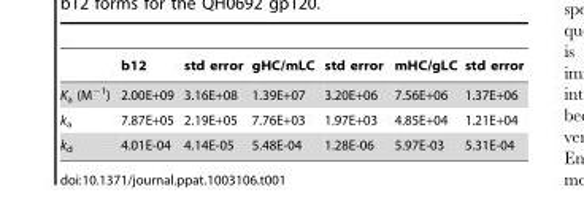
<table><thead><tr><td></td><td>b12</td><td>std error</td><td>gHC/mLC</td><td>std error</td><td>mHC/gLC</td><td>std error</td></tr></thead><tbody><tr><td>K<sub>a</sub> (M<sup>−1</sup>)</td><td>2.00E+09</td><td>3.16E+08</td><td>1.39E+07</td><td>3.20E+06</td><td>7.56E+06</td><td>1.37E+06</td></tr><tr><td>k<sub>a</sub></td><td>7.87E+05</td><td>2.19E+05</td><td>7.76E+03</td><td>1.97E+03</td><td>4.85E+04</td><td>1.21E+04</td></tr><tr><td>k<sub>d</sub></td><td>4.01E-04</td><td>4.14E-05</td><td>5.48E-04</td><td>1.28E-06</td><td>5.97E-03</td><td>5.31E-04</td></tr></tbody></table>